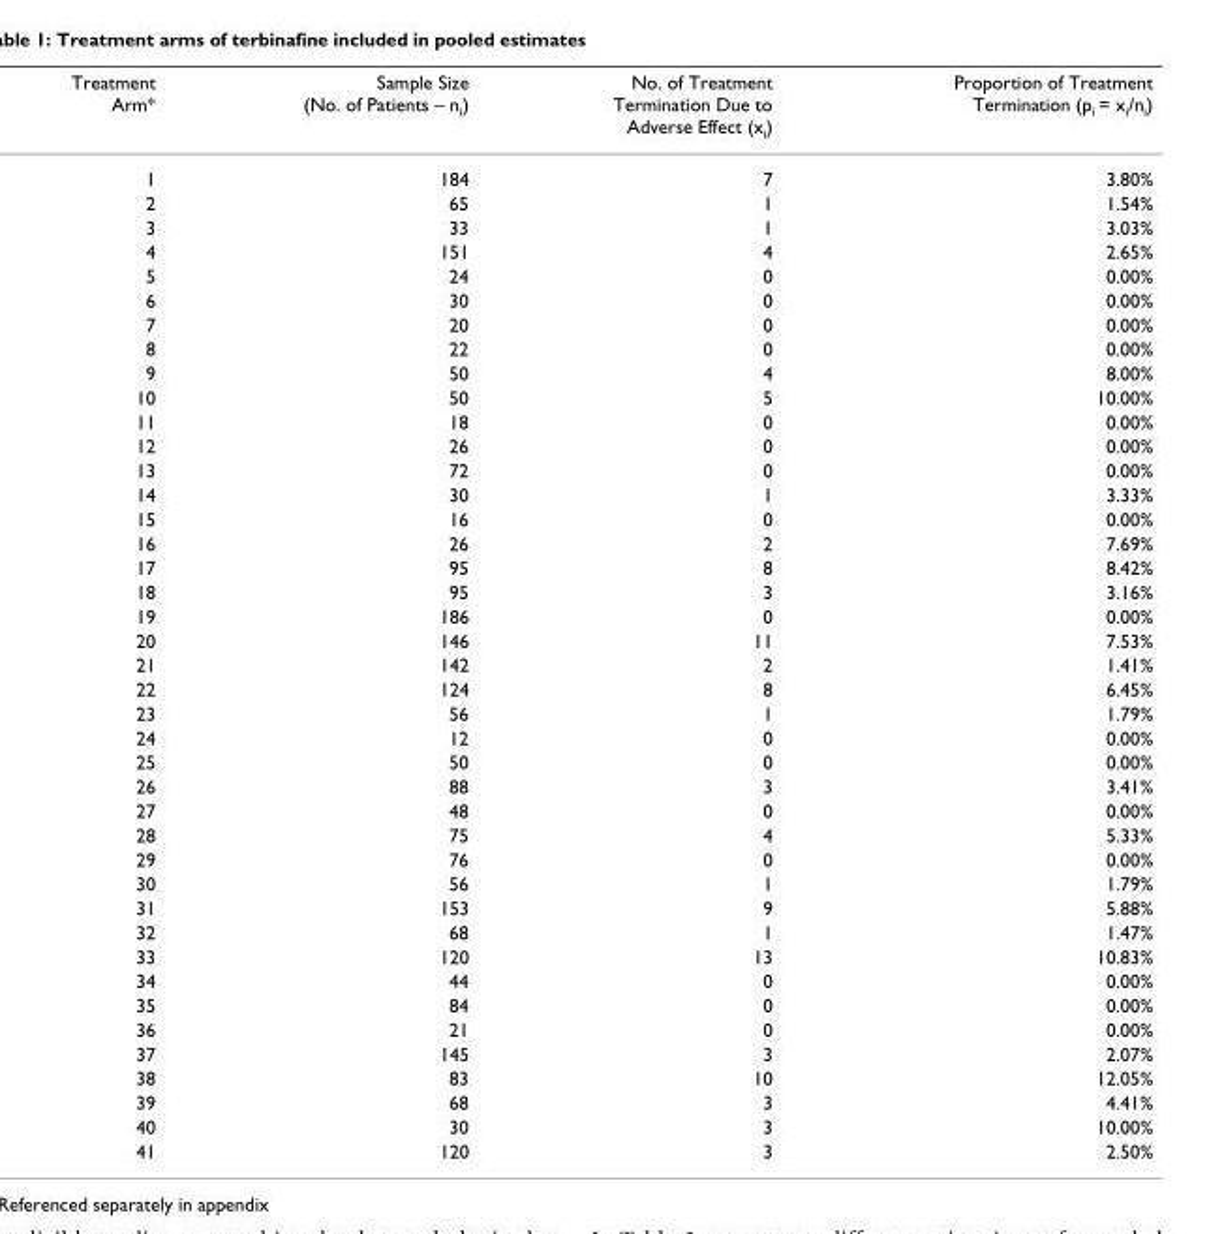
<table><thead><tr><td>Treatment Arm*</td><td>Sample Size (No. of Patients – n<sub>i</sub>)</td><td>No. of Treatment Termination Due to Adverse Effect (x<sub>i</sub>)</td><td>Proportion of Treatment Termination (p<sub>i</sub> = x<sub>i</sub>/n<sub>i</sub>)</td></tr></thead><tbody><tr><td>1</td><td>184</td><td>7</td><td>3.80%</td></tr><tr><td>2</td><td>65</td><td>1</td><td>1.54%</td></tr><tr><td>3</td><td>33</td><td>1</td><td>3.03%</td></tr><tr><td>4</td><td>151</td><td>4</td><td>2.65%</td></tr><tr><td>5</td><td>24</td><td>0</td><td>0.00%</td></tr><tr><td>6</td><td>30</td><td>0</td><td>0.00%</td></tr><tr><td>7</td><td>20</td><td>0</td><td>0.00%</td></tr><tr><td>8</td><td>22</td><td>0</td><td>0.00%</td></tr><tr><td>9</td><td>50</td><td>4</td><td>8.00%</td></tr><tr><td>10</td><td>50</td><td>5</td><td>10.00%</td></tr><tr><td>11</td><td>18</td><td>0</td><td>0.00%</td></tr><tr><td>12</td><td>26</td><td>0</td><td>0.00%</td></tr><tr><td>13</td><td>72</td><td>0</td><td>0.00%</td></tr><tr><td>14</td><td>30</td><td>1</td><td>3.33%</td></tr><tr><td>15</td><td>16</td><td>0</td><td>0.00%</td></tr><tr><td>16</td><td>26</td><td>2</td><td>7.69%</td></tr><tr><td>17</td><td>95</td><td>8</td><td>8.42%</td></tr><tr><td>18</td><td>95</td><td>3</td><td>3.16%</td></tr><tr><td>19</td><td>186</td><td>0</td><td>0.00%</td></tr><tr><td>20</td><td>146</td><td>11</td><td>7.53%</td></tr><tr><td>21</td><td>142</td><td>2</td><td>1.41%</td></tr><tr><td>22</td><td>124</td><td>8</td><td>6.45%</td></tr><tr><td>23</td><td>56</td><td>1</td><td>1.79%</td></tr><tr><td>24</td><td>12</td><td>0</td><td>0.00%</td></tr><tr><td>25</td><td>50</td><td>0</td><td>0.00%</td></tr><tr><td>26</td><td>88</td><td>3</td><td>3.41%</td></tr><tr><td>27</td><td>48</td><td>0</td><td>0.00%</td></tr><tr><td>28</td><td>75</td><td>4</td><td>5.33%</td></tr><tr><td>29</td><td>76</td><td>0</td><td>0.00%</td></tr><tr><td>30</td><td>56</td><td>1</td><td>1.79%</td></tr><tr><td>31</td><td>153</td><td>9</td><td>5.88%</td></tr><tr><td>32</td><td>68</td><td>1</td><td>1.47%</td></tr><tr><td>33</td><td>120</td><td>13</td><td>10.83%</td></tr><tr><td>34</td><td>44</td><td>0</td><td>0.00%</td></tr><tr><td>35</td><td>84</td><td>0</td><td>0.00%</td></tr><tr><td>36</td><td>21</td><td>0</td><td>0.00%</td></tr><tr><td>37</td><td>145</td><td>3</td><td>2.07%</td></tr><tr><td>38</td><td>83</td><td>10</td><td>12.05%</td></tr><tr><td>39</td><td>68</td><td>3</td><td>4.41%</td></tr><tr><td>40</td><td>30</td><td>3</td><td>10.00%</td></tr><tr><td>41</td><td>120</td><td>3</td><td>2.50%</td></tr></tbody></table>